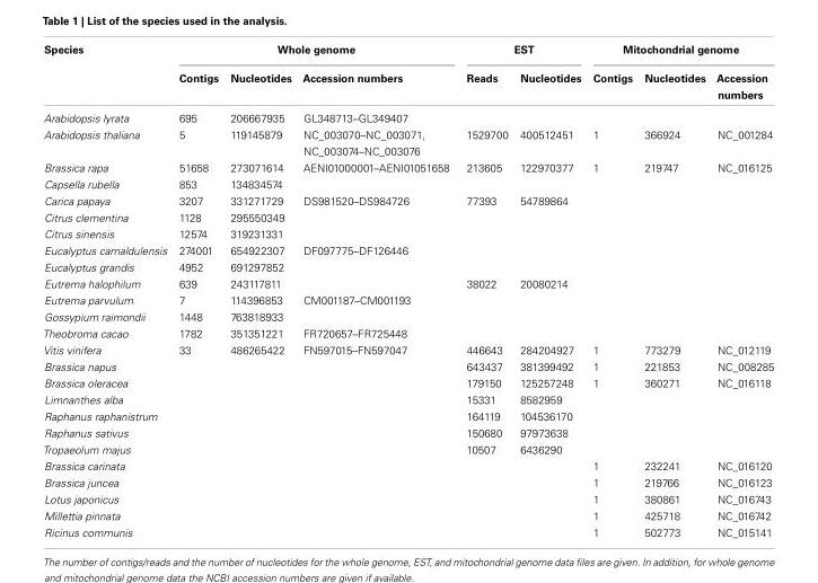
<table><thead><tr><td rowspan="2">Species</td><td colspan="3">Whole genome</td><td colspan="2">EST</td><td colspan="3">Mitochondrial genome</td></tr><tr><td>Contigs</td><td>Nucleotides</td><td>Accession numbers</td><td>Reads</td><td>Nucleotides</td><td>Contigs</td><td>Nucleotides</td><td>Accession numbers</td></tr></thead><tbody><tr><td>Arabidopsis lyrata</td><td>695</td><td>206667935</td><td>GL348713–GL349407</td><td></td><td></td><td></td><td></td><td></td></tr><tr><td>Arabidopsis thaliana</td><td>5</td><td>119145879</td><td>NC_003070–NC_003071, NC_003074–NC_003076</td><td>1529700</td><td>400512451</td><td>1</td><td>366924</td><td>NC_001284</td></tr><tr><td>Brassica rapa</td><td>51658</td><td>273071614</td><td>AENI01000001–AENI01051658</td><td>213605</td><td>122970377</td><td>1</td><td>219747</td><td>NC_016125</td></tr><tr><td>Capsella rubella</td><td>853</td><td>134834574</td><td></td><td></td><td></td><td></td><td></td><td></td></tr><tr><td>Carica papaya</td><td>3207</td><td>331271729</td><td>DS981520–DS984726</td><td>77393</td><td>54789864</td><td></td><td></td><td></td></tr><tr><td>Citrus clementina</td><td>1128</td><td>295550349</td><td></td><td></td><td></td><td></td><td></td><td></td></tr><tr><td>Citrus sinensis</td><td>12574</td><td>319231331</td><td></td><td></td><td></td><td></td><td></td><td></td></tr><tr><td>Eucalyptus camaldulensis</td><td>274001</td><td>654922307</td><td>DF097775–DF126446</td><td></td><td></td><td></td><td></td><td></td></tr><tr><td>Eucalyptus grandis</td><td>4952</td><td>691297852</td><td></td><td></td><td></td><td></td><td></td><td></td></tr><tr><td>Eutrema halophilum</td><td>639</td><td>243117811</td><td></td><td>38022</td><td>20080214</td><td></td><td></td><td></td></tr><tr><td>Eutrema parvulum</td><td>7</td><td>114396853</td><td>CM001187–CM001193</td><td></td><td></td><td></td><td></td><td></td></tr><tr><td>Gossypium raimondii</td><td>1448</td><td>763818933</td><td></td><td></td><td></td><td></td><td></td><td></td></tr><tr><td>Theobroma cacao</td><td>1782</td><td>351351221</td><td>FR720657–FR725448</td><td></td><td></td><td></td><td></td><td></td></tr><tr><td>Vitis vinifera</td><td>33</td><td>486265422</td><td>FN597015–FN597047</td><td>446643</td><td>284204927</td><td>1</td><td>773279</td><td>NC_012119</td></tr><tr><td>Brassica napus</td><td></td><td></td><td></td><td>643437</td><td>381399492</td><td>1</td><td>221853</td><td>NC_008285</td></tr><tr><td>Brassica oleracea</td><td></td><td></td><td></td><td>179150</td><td>125257248</td><td>1</td><td>360271</td><td>NC_016118</td></tr><tr><td>Limnanthes alba</td><td></td><td></td><td></td><td>15331</td><td>8582959</td><td></td><td></td><td></td></tr><tr><td>Raphanus raphanistrum</td><td></td><td></td><td></td><td>164119</td><td>104536170</td><td></td><td></td><td></td></tr><tr><td>Raphanus sativus</td><td></td><td></td><td></td><td>150680</td><td>97973638</td><td></td><td></td><td></td></tr><tr><td>Tropaeolum majus</td><td></td><td></td><td></td><td>10507</td><td>6436290</td><td></td><td></td><td></td></tr><tr><td>Brassica carinata</td><td></td><td></td><td></td><td></td><td></td><td>1</td><td>232241</td><td>NC_016120</td></tr><tr><td>Brassica juncea</td><td></td><td></td><td></td><td></td><td></td><td>1</td><td>219766</td><td>NC_016123</td></tr><tr><td>Lotus japonicus</td><td></td><td></td><td></td><td></td><td></td><td>1</td><td>380861</td><td>NC_016743</td></tr><tr><td>Millettia pinnata</td><td></td><td></td><td></td><td></td><td></td><td>1</td><td>425718</td><td>NC_016742</td></tr><tr><td>Ricinus communis</td><td></td><td></td><td></td><td></td><td></td><td>1</td><td>502773</td><td>NC_015141</td></tr></tbody></table>